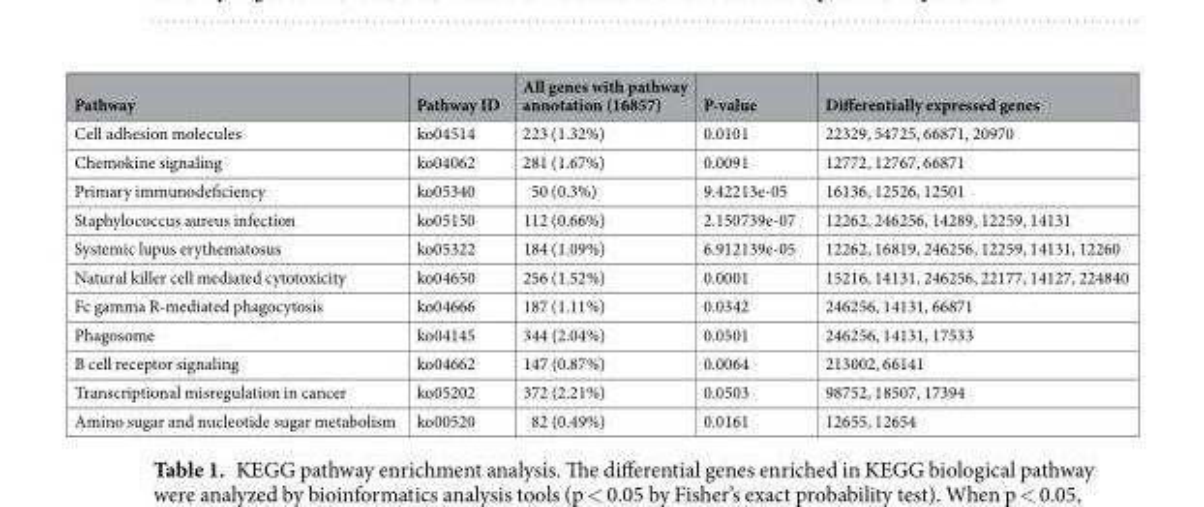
<table><thead><tr><td>Pathway</td><td>Pathway ID</td><td>All genes with pathway annotation (16857)</td><td>P-value</td><td>Differentially expressed genes</td></tr></thead><tbody><tr><td>Cell adhesion molecules</td><td>ko04514</td><td>223 (1.32%)</td><td>0.0101</td><td>22329, 54725, 66871, 20970</td></tr><tr><td>Chemokine signaling</td><td>ko04062</td><td>281 (1.67%)</td><td>0.0091</td><td>12772, 12767, 66871</td></tr><tr><td>Primary immunodeficiency</td><td>ko05340</td><td>50 (0.3%)</td><td>9.42213e-05</td><td>16136, 12526, 12501</td></tr><tr><td>Staphylococcus aureus infection</td><td>ko05150</td><td>112 (0.66%)</td><td>2.150739e-07</td><td>12262, 246256, 14289, 12259, 14131</td></tr><tr><td>Systemic lupus erythematosus</td><td>ko05322</td><td>184 (1.09%)</td><td>6.912139e-05</td><td>12262, 16819, 246256, 12259, 14131, 12260</td></tr><tr><td>Natural killer cell mediated cytotoxicity</td><td>ko04650</td><td>256 (1.52%)</td><td>0.0001</td><td>15216, 14131, 246256, 22177, 14127, 224840</td></tr><tr><td>Fc gamma R-mediated phagocytosis</td><td>ko04666</td><td>187 (1.11%)</td><td>0.0342</td><td>246256, 14131, 66871</td></tr><tr><td>Phagosome</td><td>ko04145</td><td>344 (2.04%)</td><td>0.0501</td><td>246256, 14131, 17533</td></tr><tr><td>B cell receptor signaling</td><td>ko04662</td><td>147 (0.87%)</td><td>0.0064</td><td>213002, 66141</td></tr><tr><td>Transcriptional misregulation in cancer</td><td>ko05202</td><td>372 (2.21%)</td><td>0.0503</td><td>98752, 18507, 17394</td></tr><tr><td>Amino sugar and nucleotide sugar metabolism</td><td>ko00520</td><td>82 (0.49%)</td><td>0.0161</td><td>12655, 12654</td></tr></tbody></table>